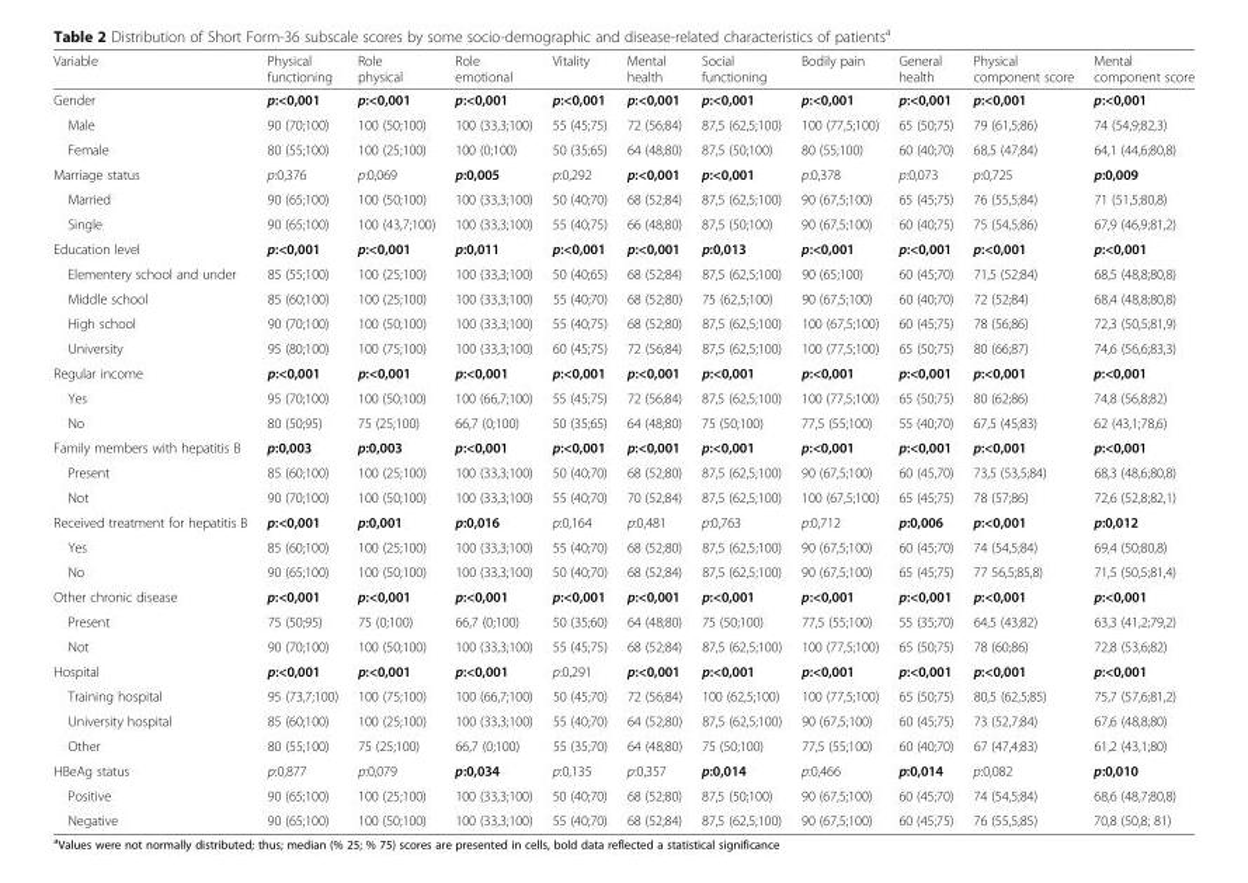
<table><thead><tr><td>Variable</td><td>Physical functioning</td><td>Role physical</td><td>Role emotional</td><td>Vitality</td><td>Mental health</td><td>Social functioning</td><td>Bodily pain</td><td>General health</td><td>Physical component score</td><td>Mental component score</td></tr></thead><tbody><tr><td>Gender</td><td>p:&lt;0,001</td><td>p:&lt;0,001</td><td>p:&lt;0,001</td><td>p:&lt;0,001</td><td>p:&lt;0,001</td><td>p:&lt;0,001</td><td>p:&lt;0,001</td><td>p:&lt;0,001</td><td>p:&lt;0,001</td><td>p:&lt;0,001</td></tr><tr><td>Male</td><td>90 (70;100)</td><td>100 (50;100)</td><td>100 (33,3;100)</td><td>55 (45;75)</td><td>72 (56;84)</td><td>87,5 (62,5;100)</td><td>100 (77,5;100)</td><td>65 (50;75)</td><td>79 (61,5;86)</td><td>74 (54,9;82,3)</td></tr><tr><td>Female</td><td>80 (55;100)</td><td>100 (25;100)</td><td>100 (0;100)</td><td>50 (35;65)</td><td>64 (48;80)</td><td>87,5 (50;100)</td><td>80 (55;100)</td><td>60 (40;70)</td><td>68,5 (47;84)</td><td>64,1 (44,6;80,8)</td></tr><tr><td>Marriage status</td><td>p:0,376</td><td>p:0,069</td><td>p:0,005</td><td>p:0,292</td><td>p:&lt;0,001</td><td>p:&lt;0,001</td><td>p:0,378</td><td>p:0,073</td><td>p:0,725</td><td>p:0,009</td></tr><tr><td>Married</td><td>90 (65;100)</td><td>100 (50;100)</td><td>100 (33,3;100)</td><td>50 (40;70)</td><td>68 (52;84)</td><td>87,5 (62,5;100)</td><td>90 (67,5;100)</td><td>65 (45;75)</td><td>76 (55,5;84)</td><td>71 (51,5;80,8)</td></tr><tr><td>Single</td><td>90 (65;100)</td><td>100 (43,7;100)</td><td>100 (33,3;100)</td><td>55 (40;75)</td><td>66 (48;80)</td><td>87,5 (50;100)</td><td>90 (67,5;100)</td><td>60 (40;75)</td><td>75 (54,5;86)</td><td>67,9 (46,9;81,2)</td></tr><tr><td>Education level</td><td>p:&lt;0,001</td><td>p:&lt;0,001</td><td>p:0,011</td><td>p:&lt;0,001</td><td>p:&lt;0,001</td><td>p:0,013</td><td>p:&lt;0,001</td><td>p:&lt;0,001</td><td>p:&lt;0,001</td><td>p:&lt;0,001</td></tr><tr><td>Elementery school and under</td><td>85 (55;100)</td><td>100 (25;100)</td><td>100 (33,3;100)</td><td>50 (40;65)</td><td>68 (52;84)</td><td>87,5 (62,5;100)</td><td>90 (65;100)</td><td>60 (45;70)</td><td>71,5 (52;84)</td><td>68,5 (48,8;80,8)</td></tr><tr><td>Middle school</td><td>85 (60;100)</td><td>100 (25;100)</td><td>100 (33,3;100)</td><td>55 (40;70)</td><td>68 (52;80)</td><td>75 (62,5;100)</td><td>90 (67,5;100)</td><td>60 (40;70)</td><td>72 (52;84)</td><td>68,4 (48,8;80,8)</td></tr><tr><td>High school</td><td>90 (70;100)</td><td>100 (50;100)</td><td>100 (33,3;100)</td><td>55 (40;75)</td><td>68 (52;80)</td><td>87,5 (62,5;100)</td><td>100 (67,5;100)</td><td>60 (45;75)</td><td>78 (56;86)</td><td>72,3 (50,5;81,9)</td></tr><tr><td>University</td><td>95 (80;100)</td><td>100 (75;100)</td><td>100 (33,3;100)</td><td>60 (45;75)</td><td>72 (56;84)</td><td>87,5 (62,5;100)</td><td>100 (77,5;100)</td><td>65 (50;75)</td><td>80 (66;87)</td><td>74,6 (56,6;83,3)</td></tr><tr><td>Regular income</td><td>p:&lt;0,001</td><td>p:&lt;0,001</td><td>p:&lt;0,001</td><td>p:&lt;0,001</td><td>p:&lt;0,001</td><td>p:&lt;0,001</td><td>p:&lt;0,001</td><td>p:&lt;0,001</td><td>p:&lt;0,001</td><td>p:&lt;0,001</td></tr><tr><td>Yes</td><td>95 (70;100)</td><td>100 (50;100)</td><td>100 (66,7;100)</td><td>55 (45;75)</td><td>72 (56;84)</td><td>87,5 (62,5;100)</td><td>100 (77,5;100)</td><td>65 (50;75)</td><td>80 (62;86)</td><td>74,8 (56,8;82)</td></tr><tr><td>No</td><td>80 (50;95)</td><td>75 (25;100)</td><td>66,7 (0;100)</td><td>50 (35;65)</td><td>64 (48;80)</td><td>75 (50;100)</td><td>77,5 (55;100)</td><td>55 (40;70)</td><td>67,5 (45;83)</td><td>62 (43,1;78,6)</td></tr><tr><td>Family members with hepatitis B</td><td>p:0,003</td><td>p:0,003</td><td>p:&lt;0,001</td><td>p:&lt;0,001</td><td>p:&lt;0,001</td><td>p:&lt;0,001</td><td>p:&lt;0,001</td><td>p:&lt;0,001</td><td>p:&lt;0,001</td><td>p:&lt;0,001</td></tr><tr><td>Present</td><td>85 (60;100)</td><td>100 (25;100)</td><td>100 (33,3;100)</td><td>50 (40;70)</td><td>68 (52;80)</td><td>87,5 (62,5;100)</td><td>90 (67,5;100)</td><td>60 (45,70)</td><td>73,5 (53,5;84)</td><td>68,3 (48,6;80,8)</td></tr><tr><td>Not</td><td>90 (70;100)</td><td>100 (50;100)</td><td>100 (33,3;100)</td><td>55 (40;70)</td><td>70 (52;84)</td><td>87,5 (62,5;100)</td><td>100 (67,5;100)</td><td>65 (45;75)</td><td>78 (57;86)</td><td>72,6 (52,8;82,1)</td></tr><tr><td>Received treatment for hepatitis B</td><td>p:&lt;0,001</td><td>p:0,001</td><td>p:0,016</td><td>p:0,164</td><td>p:0,481</td><td>p:0,763</td><td>p:0,712</td><td>p:0,006</td><td>p:&lt;0,001</td><td>p:0,012</td></tr><tr><td>Yes</td><td>85 (60;100)</td><td>100 (25;100)</td><td>100 (33,3;100)</td><td>55 (40;70)</td><td>68 (52;80)</td><td>87,5 (62,5;100)</td><td>90 (67,5;100)</td><td>60 (45;70)</td><td>74 (54,5;84)</td><td>69,4 (50;80,8)</td></tr><tr><td>No</td><td>90 (65;100)</td><td>100 (50;100)</td><td>100 (33,3;100)</td><td>50 (40;70)</td><td>68 (52;84)</td><td>87,5 (62,5;100)</td><td>90 (67,5;100)</td><td>65 (45;75)</td><td>77 56,5;85,8)</td><td>71,5 (50,5;81,4)</td></tr><tr><td>Other chronic disease</td><td>p:&lt;0,001</td><td>p:&lt;0,001</td><td>p:&lt;0,001</td><td>p:&lt;0,001</td><td>p:&lt;0,001</td><td>p:&lt;0,001</td><td>p:&lt;0,001</td><td>p:&lt;0,001</td><td>p:&lt;0,001</td><td>p:&lt;0,001</td></tr><tr><td>Present</td><td>75 (50;95)</td><td>75 (0;100)</td><td>66,7 (0;100)</td><td>50 (35;60)</td><td>64 (48;80)</td><td>75 (50;100)</td><td>77,5 (55;100)</td><td>55 (35;70)</td><td>64,5 (43;82)</td><td>63,3 (41,2;79,2)</td></tr><tr><td>Not</td><td>90 (70;100)</td><td>100 (50;100)</td><td>100 (33,3;100)</td><td>55 (45;75)</td><td>68 (52;84)</td><td>87,5 (62,5;100)</td><td>100 (77,5;100)</td><td>65 (50;75)</td><td>78 (60;86)</td><td>72,8 (53,6;82)</td></tr><tr><td>Hospital</td><td>p:&lt;0,001</td><td>p:&lt;0,001</td><td>p:&lt;0,001</td><td>p:0,291</td><td>p:&lt;0,001</td><td>p:&lt;0,001</td><td>p:&lt;0,001</td><td>p:&lt;0,001</td><td>p:&lt;0,001</td><td>p:&lt;0,001</td></tr><tr><td>Training hospital</td><td>95 (73,7;100)</td><td>100 (75;100)</td><td>100 (66,7;100)</td><td>50 (45;70)</td><td>72 (56;84)</td><td>100 (62,5;100)</td><td>100 (77,5;100)</td><td>65 (50;75)</td><td>80,5 (62,5;85)</td><td>75,7 (57,6;81,2)</td></tr><tr><td>University hospital</td><td>85 (60;100)</td><td>100 (25;100)</td><td>100 (33,3;100)</td><td>55 (40;70)</td><td>64 (52;80)</td><td>87,5 (62,5;100)</td><td>90 (67,5;100)</td><td>60 (45;75)</td><td>73 (52,7;84)</td><td>67,6 (48,8;80)</td></tr><tr><td>Other</td><td>80 (55;100)</td><td>75 (25;100)</td><td>66,7 (0;100)</td><td>55 (35;70)</td><td>64 (48;80)</td><td>75 (50;100)</td><td>77,5 (55;100)</td><td>60 (40;70)</td><td>67 (47,4;83)</td><td>61,2 (43,1;80)</td></tr><tr><td>HBeAg status</td><td>p:0,877</td><td>p:0,079</td><td>p:0,034</td><td>p:0,135</td><td>p:0,357</td><td>p:0,014</td><td>p:0,466</td><td>p:0,014</td><td>p:0,082</td><td>p:0,010</td></tr><tr><td>Positive</td><td>90 (65;100)</td><td>100 (25;100)</td><td>100 (33,3;100)</td><td>50 (40;70)</td><td>68 (52;80)</td><td>87,5 (50;100)</td><td>90 (67,5;100)</td><td>60 (45;70)</td><td>74 (54,5;84)</td><td>68,6 (48,7;80,8)</td></tr><tr><td>Negative</td><td>90 (65;100)</td><td>100 (50;100)</td><td>100 (33,3;100)</td><td>55 (40;70)</td><td>68 (52;84)</td><td>87,5 (62,5;100)</td><td>90 (67,5;100)</td><td>60 (45;75)</td><td>76 (55,5;85)</td><td>70,8 (50,8; 81)</td></tr></tbody></table>